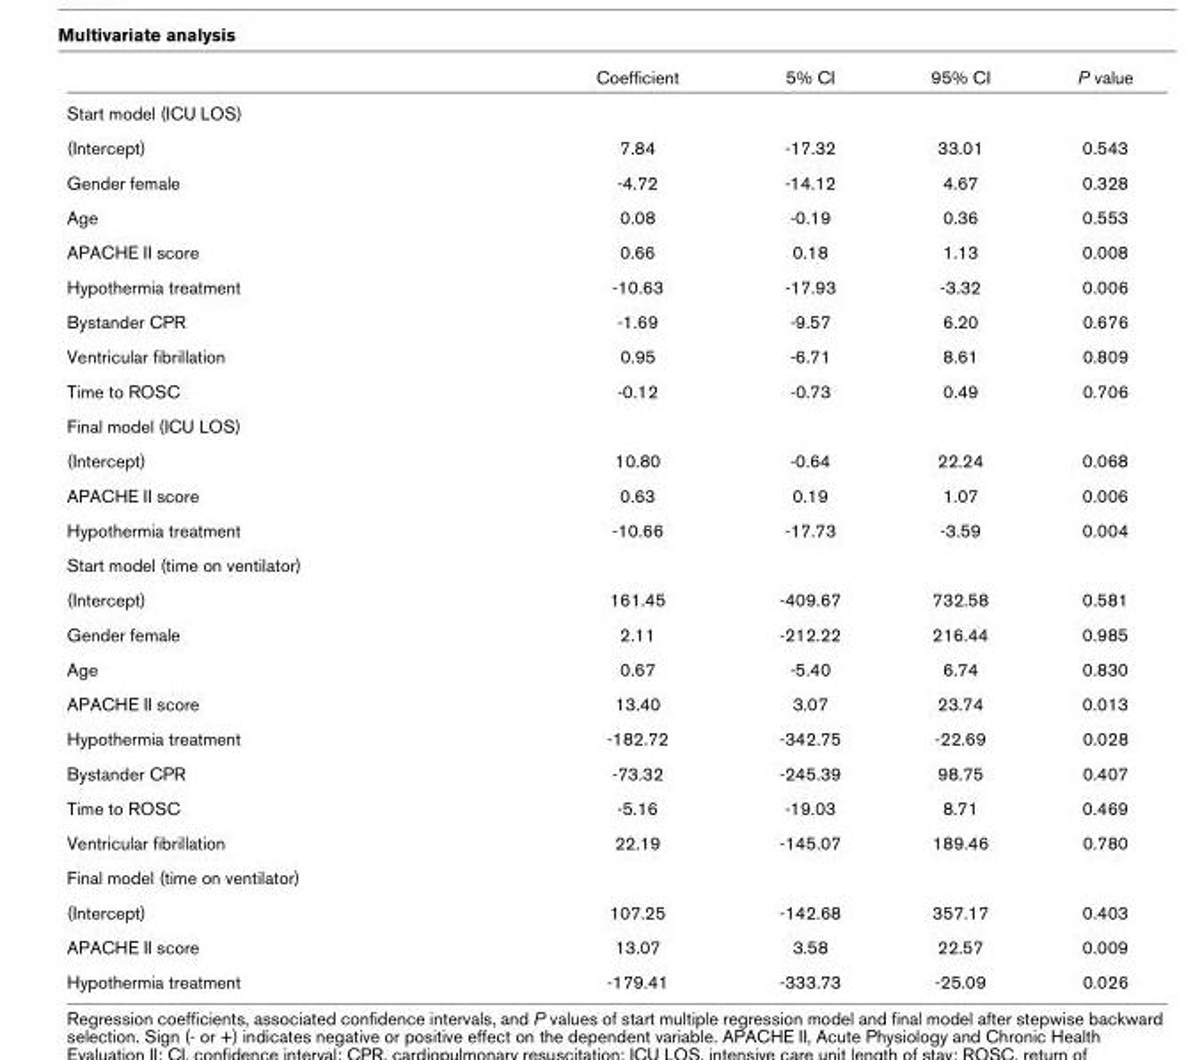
<table><thead><tr><td></td><td>Coefficient</td><td>5% CI</td><td>95% CI</td><td>P value</td></tr></thead><tbody><tr><td colspan="5">Start model (ICU LOS)</td></tr><tr><td>(Intercept)</td><td>7.84</td><td>-17.32</td><td>33.01</td><td>0.543</td></tr><tr><td>Gender female</td><td>-4.72</td><td>-14.12</td><td>4.67</td><td>0.328</td></tr><tr><td>Age</td><td>0.08</td><td>-0.19</td><td>0.36</td><td>0.553</td></tr><tr><td>APACHE II score</td><td>0.66</td><td>0.18</td><td>1.13</td><td>0.008</td></tr><tr><td>Hypothermia treatment</td><td>-10.63</td><td>-17.93</td><td>-3.32</td><td>0.006</td></tr><tr><td>Bystander CPR</td><td>-1.69</td><td>-9.57</td><td>6.20</td><td>0.676</td></tr><tr><td>Ventricular fibrillation</td><td>0.95</td><td>-6.71</td><td>8.61</td><td>0.809</td></tr><tr><td>Time to ROSC</td><td>-0.12</td><td>-0.73</td><td>0.49</td><td>0.706</td></tr><tr><td colspan="5">Final model (ICU LOS)</td></tr><tr><td>(Intercept)</td><td>10.80</td><td>-0.64</td><td>22.24</td><td>0.068</td></tr><tr><td>APACHE II score</td><td>0.63</td><td>0.19</td><td>1.07</td><td>0.006</td></tr><tr><td>Hypothermia treatment</td><td>-10.66</td><td>-17.73</td><td>-3.59</td><td>0.004</td></tr><tr><td colspan="5">Start model (time on ventilator)</td></tr><tr><td>(Intercept)</td><td>161.45</td><td>-409.67</td><td>732.58</td><td>0.581</td></tr><tr><td>Gender female</td><td>2.11</td><td>-212.22</td><td>216.44</td><td>0.985</td></tr><tr><td>Age</td><td>0.67</td><td>-5.40</td><td>6.74</td><td>0.830</td></tr><tr><td>APACHE II score</td><td>13.40</td><td>3.07</td><td>23.74</td><td>0.013</td></tr><tr><td>Hypothermia treatment</td><td>-182.72</td><td>-342.75</td><td>-22.69</td><td>0.028</td></tr><tr><td>Bystander CPR</td><td>-73.32</td><td>-245.39</td><td>98.75</td><td>0.407</td></tr><tr><td>Time to ROSC</td><td>-5.16</td><td>-19.03</td><td>8.71</td><td>0.469</td></tr><tr><td>Ventricular fibrillation</td><td>22.19</td><td>-145.07</td><td>189.46</td><td>0.780</td></tr><tr><td colspan="5">Final model (time on ventilator)</td></tr><tr><td>(Intercept)</td><td>107.25</td><td>-142.68</td><td>357.17</td><td>0.403</td></tr><tr><td>APACHE II score</td><td>13.07</td><td>3.58</td><td>22.57</td><td>0.009</td></tr><tr><td>Hypothermia treatment</td><td>-179.41</td><td>-333.73</td><td>-25.09</td><td>0.026</td></tr></tbody></table>